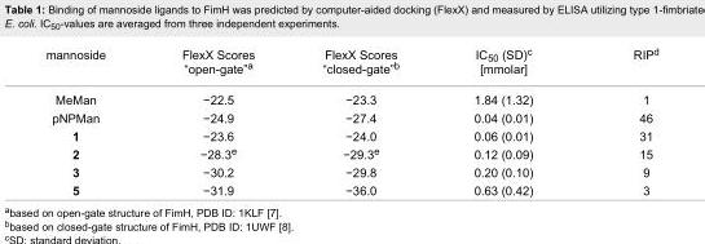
<table><tbody><tr><td>mannoside</td><td>FlexX Scores “open-gate”<sup>a</sup></td><td>FlexX Scores “closed-gate”<sup>b</sup></td><td>IC<sub>50</sub> (SD)<sup>c</sup> [mmolar]</td><td>RIP<sup>d</sup></td></tr><tr><td>MeMan</td><td>−22.5</td><td>−23.3</td><td>1.84 (1.32)</td><td>1</td></tr><tr><td>pNPMan</td><td>−24.9</td><td>−27.4</td><td>0.04 (0.01)</td><td>46</td></tr><tr><td>1</td><td>−23.6</td><td>−24.0</td><td>0.06 (0.01)</td><td>31</td></tr><tr><td>2</td><td>−28.3<sup>e</sup></td><td>−29.3<sup>e</sup></td><td>0.12 (0.09)</td><td>15</td></tr><tr><td>3</td><td>−30.2</td><td>−29.8</td><td>0.20 (0.10)</td><td>9</td></tr><tr><td>5</td><td>−31.9</td><td>−36.0</td><td>0.63 (0.42)</td><td>3</td></tr></tbody></table>